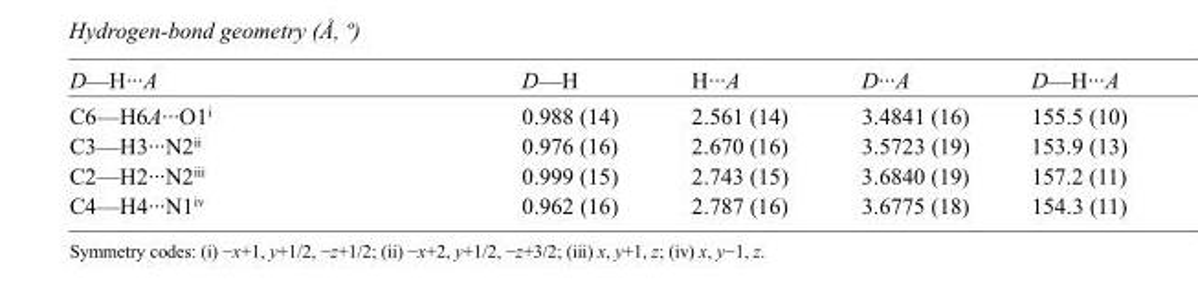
<table><tbody><tr><td>D—H···A</td><td>D—H</td><td>H···A</td><td>D···A</td><td>D—H···A</td></tr><tr><td>C6—H6A···O1<sup>i</sup></td><td>0.988 (14)</td><td>2.561 (14)</td><td>3.4841 (16)</td><td>155.5 (10)</td></tr><tr><td>C3—H3···N2<sup>ii</sup></td><td>0.976 (16)</td><td>2.670 (16)</td><td>3.5723 (19)</td><td>153.9 (13)</td></tr><tr><td>C2—H2···N2<sup>iii</sup></td><td>0.999 (15)</td><td>2.743 (15)</td><td>3.6840 (19)</td><td>157.2 (11)</td></tr><tr><td>C4—H4···N1<sup>iv</sup></td><td>0.962 (16)</td><td>2.787 (16)</td><td>3.6775 (18)</td><td>154.3 (11)</td></tr></tbody></table>